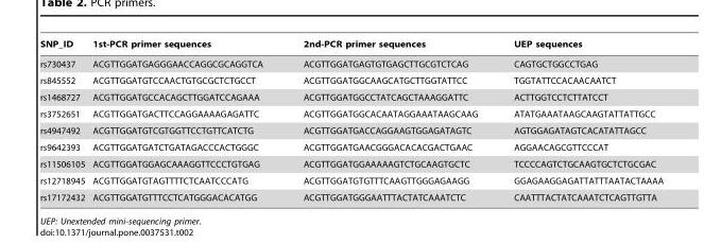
<table><thead><tr><td>SNP_ID</td><td>1st-PCR primer sequences</td><td>2nd-PCR primer sequences</td><td>UEP sequences</td></tr></thead><tbody><tr><td>rs730437</td><td>ACGTTGGATGAGGGAACCAGGCGCAGGTCA</td><td>ACGTTGGATGAGTGTGAGCTTGCGTCTCAG</td><td>CAGTGCTGGCCTGAG</td></tr><tr><td>rs845552</td><td>ACGTTGGATGTCCAACTGTGCGCTCTGCCT</td><td>ACGTTGGATGGCAAGCATGCTTGGTATTCC</td><td>TGGTATTCCACAACAATCT</td></tr><tr><td>rs1468727</td><td>ACGTTGGATGCCACAGCTTGGATCCAGAAA</td><td>ACGTTGGATGGCCTATCAGCTAAAGGATTC</td><td>ACTTGGTCCTCTTATCCT</td></tr><tr><td>rs3752651</td><td>ACGTTGGATGACTTCCAGGAAAAGAGATTC</td><td>ACGTTGGATGGCACAATAGGAAATAAGCAAG</td><td>ATATGAAATAAGCAAGTATTATTGCC</td></tr><tr><td>rs4947492</td><td>ACGTTGGATGTCGTGGTTCCTGTTCATCTG</td><td>ACGTTGGATGACCAGGAAGTGGAGATAGTC</td><td>AGTGGAGATAGTCACATATTAGCC</td></tr><tr><td>rs9642393</td><td>ACGTTGGATGATCTGATAGACCCACTGGGC</td><td>ACGTTGGATGAACGGGACACACGACTGAAC</td><td>AGGAACAGCGTTCCCAT</td></tr><tr><td>rs11506105</td><td>ACGTTGGATGGAGCAAAGGTTCCCTGTGAG</td><td>ACGTTGGATGGAAAAAGTCTGCAAGTGCTC</td><td>TCCCCAGTCTGCAAGTGCTCTGCGAC</td></tr><tr><td>rs12718945</td><td>ACGTTGGATGTAGTTTTCTCAATCCCATG</td><td>ACGTTGGATGTGTTTCAAGTTGGGAGAAGG</td><td>GGAGAAGGAGATTATTTAATACTAAAA</td></tr><tr><td>rs17172432</td><td>ACGTTGGATGTTTCCTCATGGGACACATGG</td><td>ACGTTGGATGGGAATTTACTATCAAATCTC</td><td>CAATTTACTATCAAATCTCAGTTGTTA</td></tr></tbody></table>